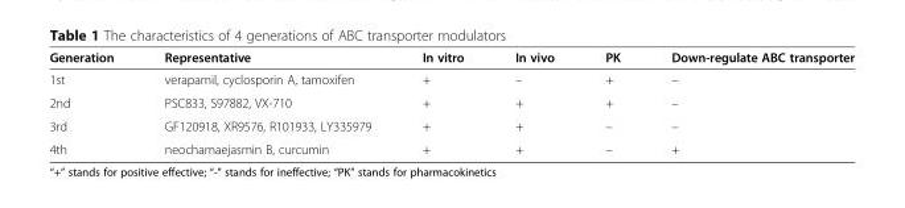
<table><thead><tr><td>Generation</td><td>Representative</td><td>In vitro</td><td>In vivo</td><td>PK</td><td>Down-regulate ABC transporter</td></tr></thead><tbody><tr><td>1st</td><td>verapamil, cyclosporin A, tamoxifen</td><td>+</td><td>–</td><td>+</td><td>–</td></tr><tr><td>2nd</td><td>PSC833, S97882, VX-710</td><td>+</td><td>+</td><td>+</td><td>–</td></tr><tr><td>3rd</td><td>GF120918, XR9576, R101933, LY335979</td><td>+</td><td>+</td><td>–</td><td>–</td></tr><tr><td>4th</td><td>neochamaejasmin B, curcumin</td><td>+</td><td>+</td><td>–</td><td>+</td></tr></tbody></table>